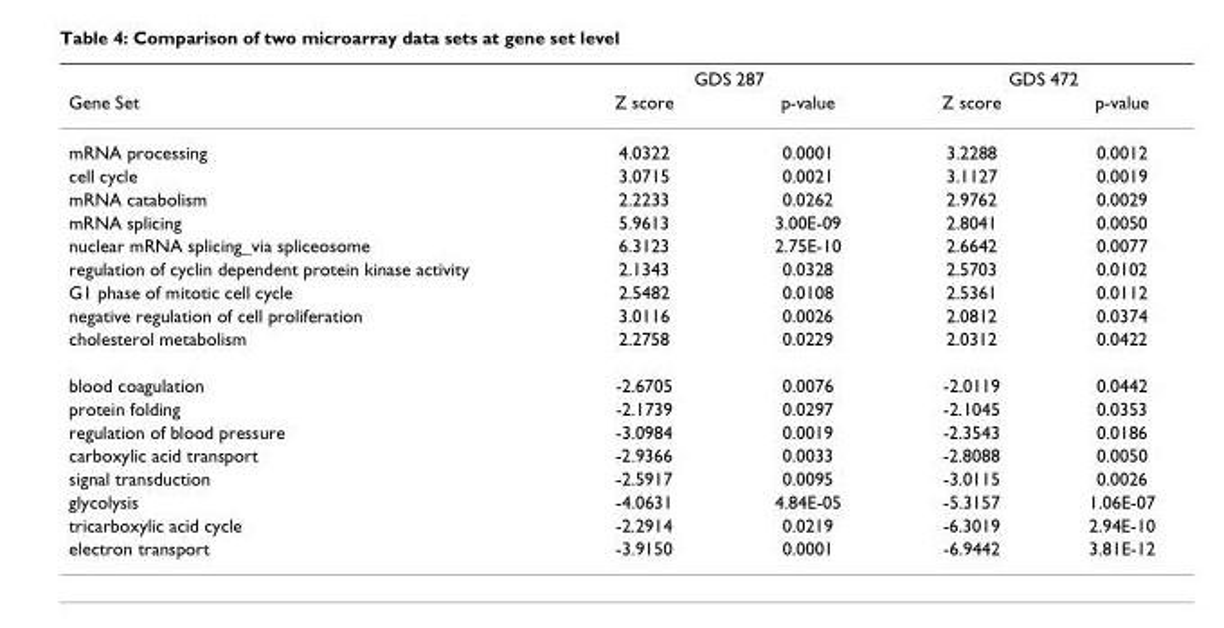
<table><thead><tr><td rowspan="2">Gene Set</td><td colspan="2">GDS 287</td><td colspan="2">GDS 472</td></tr><tr><td>Z score</td><td>p-value</td><td>Z score</td><td>p-value</td></tr></thead><tbody><tr><td>mRNA processing</td><td>4.0322</td><td>0.0001</td><td>3.2288</td><td>0.0012</td></tr><tr><td>cell cycle</td><td>3.0715</td><td>0.0021</td><td>3.1127</td><td>0.0019</td></tr><tr><td>mRNA catabolism</td><td>2.2233</td><td>0.0262</td><td>2.9762</td><td>0.0029</td></tr><tr><td>mRNA splicing</td><td>5.9613</td><td>3.00E-09</td><td>2.8041</td><td>0.0050</td></tr><tr><td>nuclear mRNA splicing_via spliceosome</td><td>6.3123</td><td>2.75E-10</td><td>2.6642</td><td>0.0077</td></tr><tr><td>regulation of cyclin dependent protein kinase activity</td><td>2.1343</td><td>0.0328</td><td>2.5703</td><td>0.0102</td></tr><tr><td>G1 phase of mitotic cell cycle</td><td>2.5482</td><td>0.0108</td><td>2.5361</td><td>0.0112</td></tr><tr><td>negative regulation of cell proliferation</td><td>3.0116</td><td>0.0026</td><td>2.0812</td><td>0.0374</td></tr><tr><td>cholesterol metabolism</td><td>2.2758</td><td>0.0229</td><td>2.0312</td><td>0.0422</td></tr><tr><td>blood coagulation</td><td>-2.6705</td><td>0.0076</td><td>-2.0119</td><td>0.0442</td></tr><tr><td>protein folding</td><td>-2.1739</td><td>0.0297</td><td>-2.1045</td><td>0.0353</td></tr><tr><td>regulation of blood pressure</td><td>-3.0984</td><td>0.0019</td><td>-2.3543</td><td>0.0186</td></tr><tr><td>carboxylic acid transport</td><td>-2.9366</td><td>0.0033</td><td>-2.8088</td><td>0.0050</td></tr><tr><td>signal transduction</td><td>-2.5917</td><td>0.0095</td><td>-3.0115</td><td>0.0026</td></tr><tr><td>glycolysis</td><td>-4.0631</td><td>4.84E-05</td><td>-5.3157</td><td>1.06E-07</td></tr><tr><td>tricarboxylic acid cycle</td><td>-2.2914</td><td>0.0219</td><td>-6.3019</td><td>2.94E-10</td></tr><tr><td>electron transport</td><td>-3.9150</td><td>0.0001</td><td>-6.9442</td><td>3.81E-12</td></tr></tbody></table>